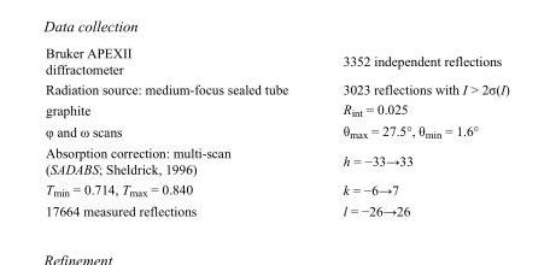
<table><tbody><tr><td>Bruker APEXII diffractometer</td><td>3352 independent reflections</td></tr><tr><td>Radiation source: medium-focus sealed tube</td><td>3023 reflections with I &gt; 2σ(I)</td></tr><tr><td>graphite</td><td>R<sub>int</sub> = 0.025</td></tr><tr><td>φ and ω scans</td><td>θ<sub>max</sub> = 27.5°, θ<sub>min</sub> = 1.6°</td></tr><tr><td>Absorption correction: multi-scan (SADABS; Sheldrick, 1996)</td><td>h = −33→33</td></tr><tr><td>T<sub>min</sub> = 0.714, T<sub>max</sub> = 0.840</td><td>k = −6→7</td></tr><tr><td>17664 measured reflections</td><td>l = −26→26</td></tr></tbody></table>